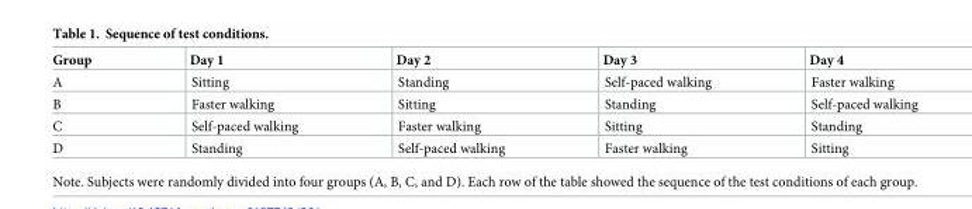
<table><thead><tr><td>Group</td><td>Day 1</td><td>Day 2</td><td>Day 3</td><td>Day 4</td></tr></thead><tbody><tr><td>A</td><td>Sitting</td><td>Standing</td><td>Self-paced walking</td><td>Faster walking</td></tr><tr><td>B</td><td>Faster walking</td><td>Sitting</td><td>Standing</td><td>Self-paced walking</td></tr><tr><td>C</td><td>Self-paced walking</td><td>Faster walking</td><td>Sitting</td><td>Standing</td></tr><tr><td>D</td><td>Standing</td><td>Self-paced walking</td><td>Faster walking</td><td>Sitting</td></tr></tbody></table>